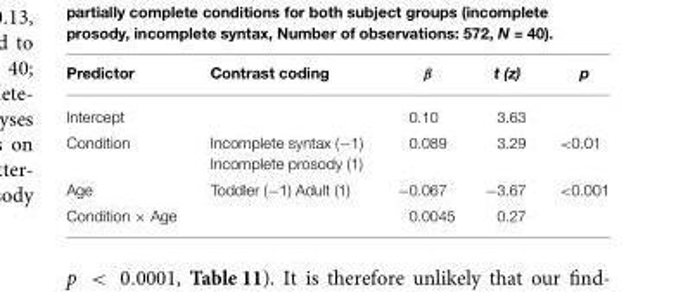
<table><thead><tr><td>Predictor</td><td>Contrast coding</td><td>β</td><td>t (z)</td><td>p</td></tr></thead><tbody><tr><td>Intercept</td><td></td><td>0.10</td><td>3.63</td><td></td></tr><tr><td>Condition</td><td>Incomplete syntax (−1) Incomplete prosody (1)</td><td>0.089</td><td>3.29</td><td>&lt;0.01</td></tr><tr><td>Age</td><td>Toddler (−1) Adult (1)</td><td>−0.067</td><td>−3.67</td><td>&lt;0.001</td></tr><tr><td>Condition × Age</td><td></td><td>0.0045</td><td>0.27</td><td></td></tr></tbody></table>